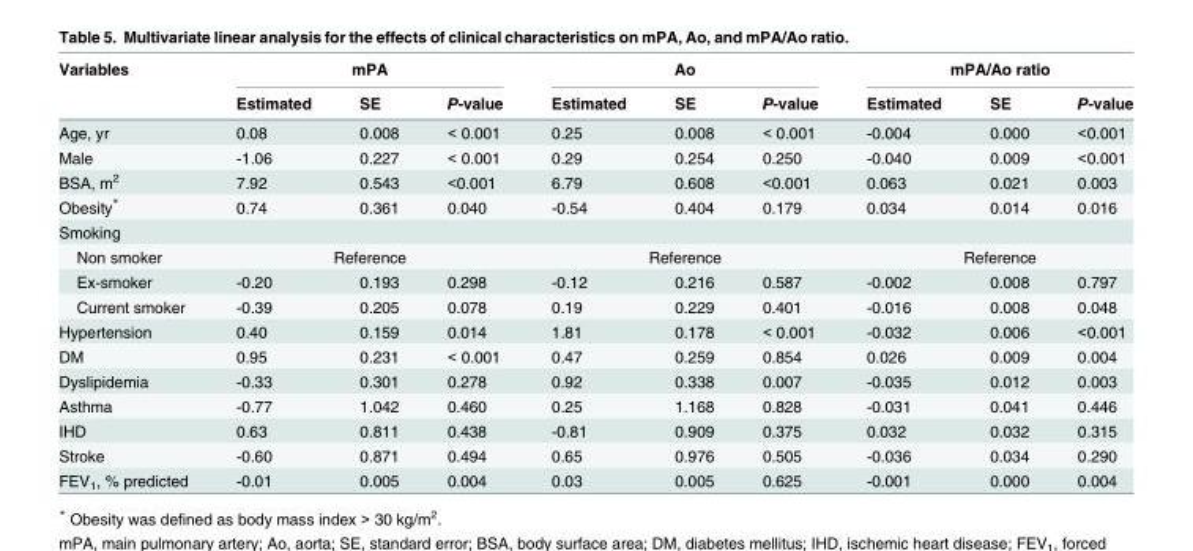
<table><thead><tr><td rowspan="2">Variables</td><td colspan="3">mPA</td><td colspan="3">Ao</td><td colspan="3">mPA/Ao ratio</td></tr><tr><td>Estimated</td><td>SE</td><td>P-value</td><td>Estimated</td><td>SE</td><td>P-value</td><td>Estimated</td><td>SE</td><td>P-value</td></tr></thead><tbody><tr><td>Age, yr</td><td>0.08</td><td>0.008</td><td>&lt; 0.001</td><td>0.25</td><td>0.008</td><td>&lt; 0.001</td><td>-0.004</td><td>0.000</td><td>&lt;0.001</td></tr><tr><td>Male</td><td>-1.06</td><td>0.227</td><td>&lt; 0.001</td><td>0.29</td><td>0.254</td><td>0.250</td><td>-0.040</td><td>0.009</td><td>&lt;0.001</td></tr><tr><td>BSA, m<sup>2</sup></td><td>7.92</td><td>0.543</td><td>&lt;0.001</td><td>6.79</td><td>0.608</td><td>&lt;0.001</td><td>0.063</td><td>0.021</td><td>0.003</td></tr><tr><td>Obesity*</td><td>0.74</td><td>0.361</td><td>0.040</td><td>-0.54</td><td>0.404</td><td>0.179</td><td>0.034</td><td>0.014</td><td>0.016</td></tr><tr><td colspan="10">Smoking</td></tr><tr><td>Non smoker</td><td colspan="3">Reference</td><td colspan="3">Reference</td><td colspan="3">Reference</td></tr><tr><td>Ex-smoker</td><td>-0.20</td><td>0.193</td><td>0.298</td><td>-0.12</td><td>0.216</td><td>0.587</td><td>-0.002</td><td>0.008</td><td>0.797</td></tr><tr><td>Current smoker</td><td>-0.39</td><td>0.205</td><td>0.078</td><td>0.19</td><td>0.229</td><td>0.401</td><td>-0.016</td><td>0.008</td><td>0.048</td></tr><tr><td>Hypertension</td><td>0.40</td><td>0.159</td><td>0.014</td><td>1.81</td><td>0.178</td><td>&lt; 0.001</td><td>-0.032</td><td>0.006</td><td>&lt;0.001</td></tr><tr><td>DM</td><td>0.95</td><td>0.231</td><td>&lt; 0.001</td><td>0.47</td><td>0.259</td><td>0.854</td><td>0.026</td><td>0.009</td><td>0.004</td></tr><tr><td>Dyslipidemia</td><td>-0.33</td><td>0.301</td><td>0.278</td><td>0.92</td><td>0.338</td><td>0.007</td><td>-0.035</td><td>0.012</td><td>0.003</td></tr><tr><td>Asthma</td><td>-0.77</td><td>1.042</td><td>0.460</td><td>0.25</td><td>1.168</td><td>0.828</td><td>-0.031</td><td>0.041</td><td>0.446</td></tr><tr><td>IHD</td><td>0.63</td><td>0.811</td><td>0.438</td><td>-0.81</td><td>0.909</td><td>0.375</td><td>0.032</td><td>0.032</td><td>0.315</td></tr><tr><td>Stroke</td><td>-0.60</td><td>0.871</td><td>0.494</td><td>0.65</td><td>0.976</td><td>0.505</td><td>-0.036</td><td>0.034</td><td>0.290</td></tr><tr><td>FEV<sub>1</sub>, % predicted</td><td>-0.01</td><td>0.005</td><td>0.004</td><td>0.03</td><td>0.005</td><td>0.625</td><td>-0.001</td><td>0.000</td><td>0.004</td></tr></tbody></table>